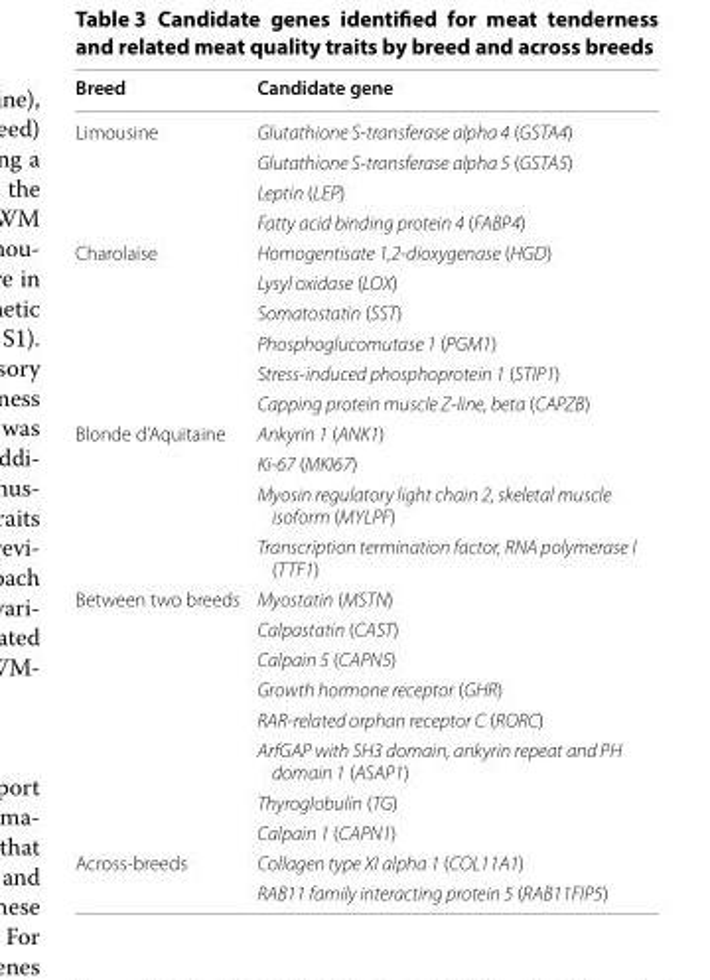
<table><thead><tr><td>Breed</td><td>Candidate gene</td></tr></thead><tbody><tr><td rowspan="4">Limousine</td><td>Glutathione S‑transferase alpha 4 (GSTA4)</td></tr><tr><td>Glutathione S‑transferase alpha 5 (GSTA5)</td></tr><tr><td>Leptin (LEP)</td></tr><tr><td>Fatty acid binding protein 4 (FABP4)</td></tr><tr><td rowspan="6">Charolaise</td><td>Homogentisate 1,2‑dioxygenase (HGD)</td></tr><tr><td>Lysyl oxidase (LOX)</td></tr><tr><td>Somatostatin (SST)</td></tr><tr><td>Phosphoglucomutase 1 (PGM1)</td></tr><tr><td>Stress‑induced phosphoprotein 1 (STIP1)</td></tr><tr><td>Capping protein muscle Z‑line, beta (CAPZB)</td></tr><tr><td rowspan="4">Blonde d’Aquitaine</td><td>Ankyrin 1 (ANK1)</td></tr><tr><td>Ki‑67 (MKI67)</td></tr><tr><td>Myosin regulatory light chain 2, skeletal muscle isoform (MYLPF)</td></tr><tr><td>Transcription termination factor, RNA polymerase I (TTF1)</td></tr><tr><td rowspan="8">Between two breeds</td><td>Myostatin (MSTN)</td></tr><tr><td>Calpastatin (CAST)</td></tr><tr><td>Calpain 5 (CAPN5)</td></tr><tr><td>Growth hormone receptor (GHR)</td></tr><tr><td>RAR‑related orphan receptor C (RORC)</td></tr><tr><td>ArfGAP with SH3 domain, ankyrin repeat and PH domain 1 (ASAP1)</td></tr><tr><td>Thyroglobulin (TG)</td></tr><tr><td>Calpain 1 (CAPN1)</td></tr><tr><td rowspan="2">Across‑breeds</td><td>Collagen type XI alpha 1 (COL11A1)</td></tr><tr><td>RAB11 family interacting protein 5 (RAB11FIP5)</td></tr></tbody></table>